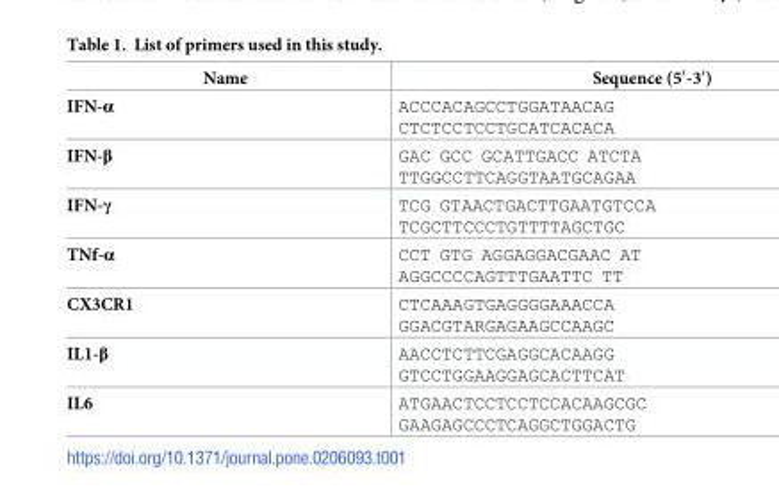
<table><thead><tr><td>Name</td><td>Sequence (5′-3′)</td></tr></thead><tbody><tr><td>IFN-α</td><td>ACCCACAGCCTGGATAACAG CTCTCCTCCTGCATCACACA</td></tr><tr><td>IFN-β</td><td>GAC GCC GCATTGACC ATCTA TTGGCCTTCAGGTAATGCAGAA</td></tr><tr><td>IFN-γ</td><td>TCG GTAACTGACTTGAATGTCCA TCGCTTCCCTGTTTTAGCTGC</td></tr><tr><td>TNf-α</td><td>CCT GTG AGGAGGACGAAC AT AGGCCCCAGTTTGAATTC TT</td></tr><tr><td>CX3CR1</td><td>CTCAAAGTGAGGGGAAACCA GGACGTARGAGAAGCCAAGC</td></tr><tr><td>IL1-β</td><td>AACCTCTTCGAGGCACAAGG GTCCTGGAAGGAGCACTTCAT</td></tr><tr><td>IL6</td><td>ATGAACTCCTCCTCCACAAGCGC GAAGAGCCCTCAGGCTGGACTG</td></tr></tbody></table>